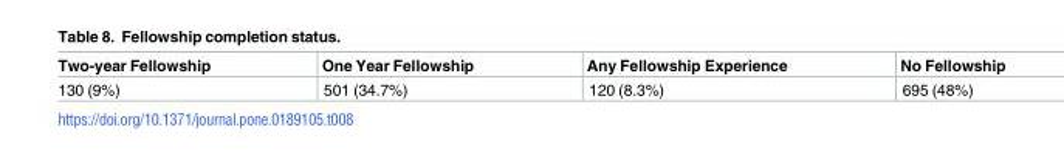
<table><thead><tr><td>Two-year Fellowship</td><td>One Year Fellowship</td><td>Any Fellowship Experience</td><td>No Fellowship</td></tr></thead><tbody><tr><td>130 (9%)</td><td>501 (34.7%)</td><td>120 (8.3%)</td><td>695 (48%)</td></tr></tbody></table>